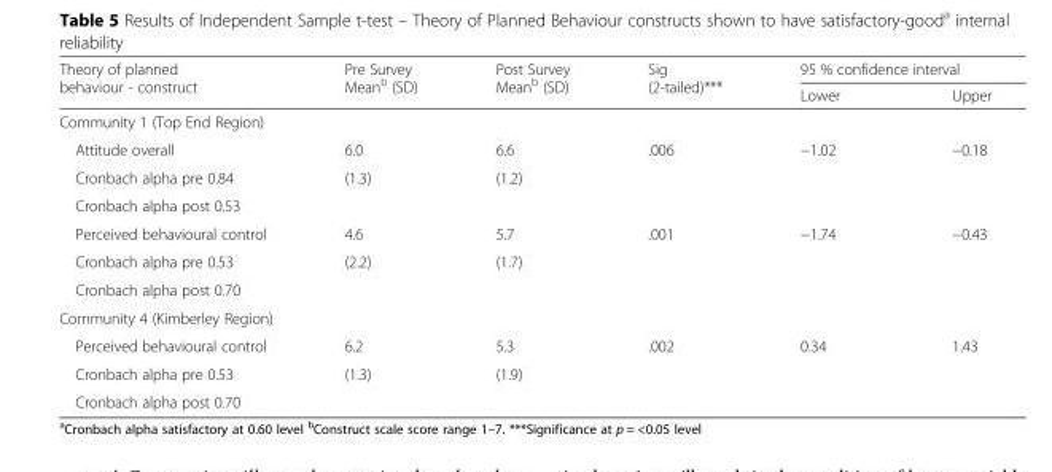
<table><thead><tr><td rowspan="2">Theory of planned behaviour - construct</td><td rowspan="2">Pre Survey Mean<sup>b</sup> (SD)</td><td rowspan="2">Post Survey Mean<sup>b</sup> (SD)</td><td rowspan="2">Sig (2-tailed)***</td><td colspan="2">95 % confidence interval</td></tr><tr><td>Lower</td><td>Upper</td></tr></thead><tbody><tr><td colspan="6">Community 1 (Top End Region)</td></tr><tr><td>Attitude overall</td><td>6.0</td><td>6.6</td><td rowspan="3">.006</td><td rowspan="3">−1.02</td><td rowspan="3">−0.18</td></tr><tr><td>Cronbach alpha pre 0.84</td><td rowspan="2">(1.3)</td><td rowspan="2">(1.2)</td></tr><tr><td>Cronbach alpha post 0.53</td></tr><tr><td>Perceived behavioural control</td><td>4.6</td><td>5.7</td><td rowspan="3">.001</td><td rowspan="3">−1.74</td><td rowspan="3">−0.43</td></tr><tr><td>Cronbach alpha pre 0.53</td><td rowspan="2">(2.2)</td><td rowspan="2">(1.7)</td></tr><tr><td>Cronbach alpha post 0.70</td></tr><tr><td colspan="6">Community 4 (Kimberley Region)</td></tr><tr><td>Perceived behavioural control</td><td>6.2</td><td>5.3</td><td rowspan="3">.002</td><td rowspan="3">0.34</td><td rowspan="3">1.43</td></tr><tr><td>Cronbach alpha pre 0.53</td><td rowspan="2">(1.3)</td><td rowspan="2">(1.9)</td></tr><tr><td>Cronbach alpha post 0.70</td></tr></tbody></table>